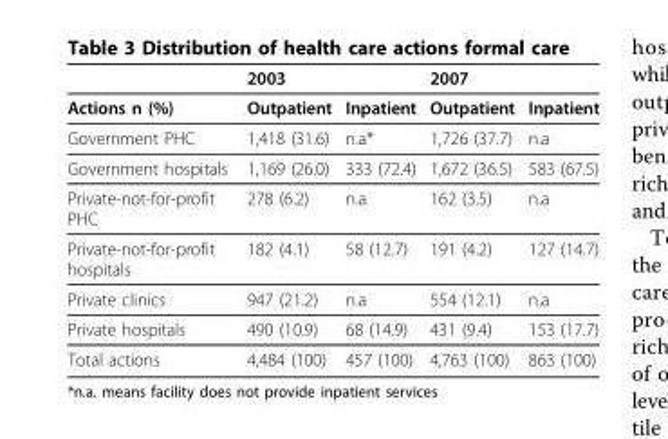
<table><thead><tr><td></td><td>2003</td><td></td><td>2007</td><td></td></tr></thead><tbody><tr><td>Actions n (%)</td><td>Outpatient</td><td>Inpatient</td><td>Outpatient</td><td>Inpatient</td></tr><tr><td>Government PHC</td><td>1,418 (31.6)</td><td>n.a*</td><td>1,726 (37.7)</td><td>n.a</td></tr><tr><td>Government hospitals</td><td>1,169 (26.0)</td><td>333 (72.4)</td><td>1,672 (36.5)</td><td>583 (67.5)</td></tr><tr><td>Private-not-for-profit PHC</td><td>278 (6.2)</td><td>n.a</td><td>162 (3.5)</td><td>n.a</td></tr><tr><td>Private-not-for-profit hospitals</td><td>182 (4.1)</td><td>58 (12.7)</td><td>191 (4.2)</td><td>127 (14.7)</td></tr><tr><td>Private clinics</td><td>947 (21.2)</td><td>n.a</td><td>554 (12.1)</td><td>n.a</td></tr><tr><td>Private hospitals</td><td>490 (10.9)</td><td>68 (14.9)</td><td>431 (9.4)</td><td>153 (17.7)</td></tr><tr><td>Total actions</td><td>4,484 (100)</td><td>457 (100)</td><td>4,763 (100)</td><td>863 (100)</td></tr></tbody></table>